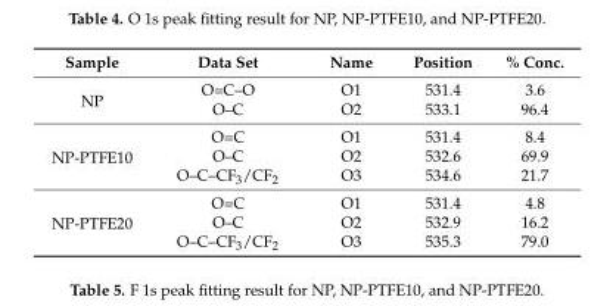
<table><thead><tr><td>Sample</td><td>Data Set</td><td>Name</td><td>Position</td><td>% Conc.</td></tr></thead><tbody><tr><td rowspan="2">NP</td><td>O=C–O</td><td>O1</td><td>531.4</td><td>3.6</td></tr><tr><td>O–C</td><td>O2</td><td>533.1</td><td>96.4</td></tr><tr><td rowspan="3">NP-PTFE10</td><td>O=C</td><td>O1</td><td>531.4</td><td>8.4</td></tr><tr><td>O–C</td><td>O2</td><td>532.6</td><td>69.9</td></tr><tr><td>O–C–CF<sub>3</sub>/CF<sub>2</sub></td><td>O3</td><td>534.6</td><td>21.7</td></tr><tr><td rowspan="3">NP-PTFE20</td><td>O=C</td><td>O1</td><td>531.4</td><td>4.8</td></tr><tr><td>O–C</td><td>O2</td><td>532.9</td><td>16.2</td></tr><tr><td>O–C–CF<sub>3</sub>/CF<sub>2</sub></td><td>O3</td><td>535.3</td><td>79.0</td></tr></tbody></table>